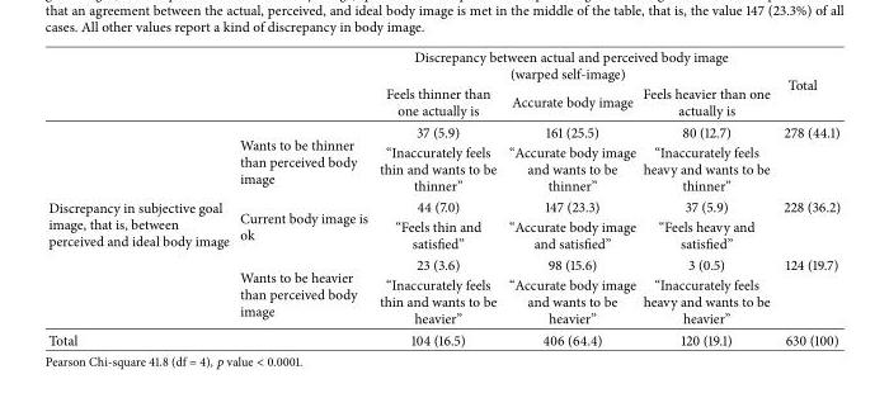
<table><thead><tr><td rowspan="2"></td><td rowspan="2"></td><td colspan="3">Discrepancy between actual and perceived body image (warped self-image)</td><td rowspan="2">Total</td></tr><tr><td>Feels thinner than one actually is</td><td>Accurate body image</td><td>Feels heavier than one actually is</td></tr></thead><tbody><tr><td rowspan="6">Discrepancy in subjective goal image, that is, between perceived and ideal body image</td><td rowspan="2">Wants to be thinner than perceived body image</td><td>37 (5.9)</td><td>161 (25.5)</td><td>80 (12.7)</td><td>278 (44.1)</td></tr><tr><td>“Inaccurately feels thin and wants to be thinner”</td><td>“Accurate body image and wants to be thinner”</td><td>“Inaccurately feels heavy and wants to be thinner”</td><td></td></tr><tr><td rowspan="2">Current body image is ok</td><td>44 (7.0)</td><td>147 (23.3)</td><td>37 (5.9)</td><td>228 (36.2)</td></tr><tr><td>“Feels thin and satisfied”</td><td>“Accurate body image and satisfied”</td><td>“Feels heavy and satisfied”</td><td></td></tr><tr><td rowspan="2">Wants to be heavier than perceived body image</td><td>23 (3.6)</td><td>98 (15.6)</td><td>3 (0.5)</td><td>124 (19.7)</td></tr><tr><td>“Inaccurately feels thin and wants to be heavier”</td><td>“Accurate body image and wants to be heavier”</td><td>“Inaccurately feels heavy and wants to be heavier”</td><td></td></tr><tr><td>Total</td><td></td><td>104 (16.5)</td><td>406 (64.4)</td><td>120 (19.1)</td><td>630 (100)</td></tr></tbody></table>